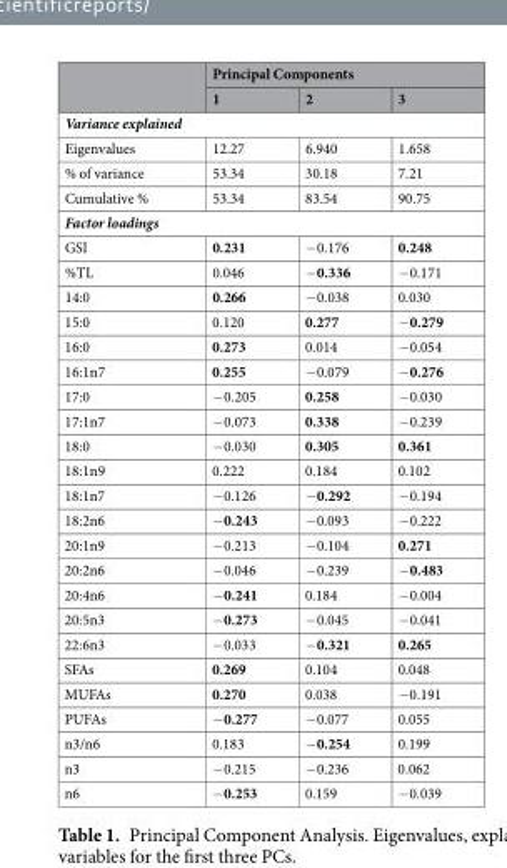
<table><thead><tr><td rowspan="2"></td><td colspan="3">Principal Components</td></tr><tr><td>1</td><td>2</td><td>3</td></tr></thead><tbody><tr><td colspan="4">Variance explained</td></tr><tr><td>Eigenvalues</td><td>12.27</td><td>6.940</td><td>1.658</td></tr><tr><td>% of variance</td><td>53.34</td><td>30.18</td><td>7.21</td></tr><tr><td>Cumulative %</td><td>53.34</td><td>83.54</td><td>90.75</td></tr><tr><td colspan="4">Factor loadings</td></tr><tr><td>GSI</td><td>0.231</td><td>−0.176</td><td>0.248</td></tr><tr><td>%TL</td><td>0.046</td><td>−0.336</td><td>−0.171</td></tr><tr><td>14:0</td><td>0.266</td><td>−0.038</td><td>0.030</td></tr><tr><td>15:0</td><td>0.120</td><td>0.277</td><td>−0.279</td></tr><tr><td>16:0</td><td>0.273</td><td>0.014</td><td>−0.054</td></tr><tr><td>16:1n7</td><td>0.255</td><td>−0.079</td><td>−0.276</td></tr><tr><td>17:0</td><td>−0.205</td><td>0.258</td><td>−0.030</td></tr><tr><td>17:1n7</td><td>−0.073</td><td>0.338</td><td>−0.239</td></tr><tr><td>18:0</td><td>−0.030</td><td>0.305</td><td>0.361</td></tr><tr><td>18:1n9</td><td>0.222</td><td>0.184</td><td>0.102</td></tr><tr><td>18:1n7</td><td>−0.126</td><td>−0.292</td><td>−0.194</td></tr><tr><td>18:2n6</td><td>−0.243</td><td>−0.093</td><td>−0.222</td></tr><tr><td>20:1n9</td><td>−0.213</td><td>−0.104</td><td>0.271</td></tr><tr><td>20:2n6</td><td>−0.046</td><td>−0.239</td><td>−0.483</td></tr><tr><td>20:4n6</td><td>−0.241</td><td>0.184</td><td>−0.004</td></tr><tr><td>20:5n3</td><td>−0.273</td><td>−0.045</td><td>−0.041</td></tr><tr><td>22:6n3</td><td>−0.033</td><td>−0.321</td><td>0.265</td></tr><tr><td>SFAs</td><td>0.269</td><td>0.104</td><td>0.048</td></tr><tr><td>MUFAs</td><td>0.270</td><td>0.038</td><td>−0.191</td></tr><tr><td>PUFAs</td><td>−0.277</td><td>−0.077</td><td>0.055</td></tr><tr><td>n3/n6</td><td>0.183</td><td>−0.254</td><td>0.199</td></tr><tr><td>n3</td><td>−0.215</td><td>−0.236</td><td>0.062</td></tr><tr><td>n6</td><td>−0.253</td><td>0.159</td><td>−0.039</td></tr></tbody></table>